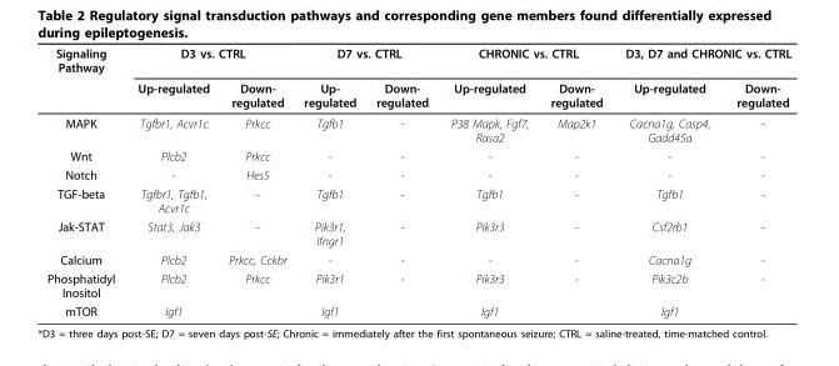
<table><thead><tr><td rowspan="2">Signaling Pathway</td><td colspan="2">D3 vs. CTRL</td><td colspan="2">D7 vs. CTRL</td><td colspan="2">CHRONIC vs. CTRL</td><td colspan="2">D3, D7 and CHRONIC vs. CTRL</td></tr><tr><td>Up-regulated</td><td>Down- regulated</td><td>Up- regulated</td><td>Down- regulated</td><td>Up-regulated</td><td>Down- regulated</td><td>Up-regulated</td><td>Down- regulated</td></tr></thead><tbody><tr><td>MAPK</td><td>Tgfbr1, Acvr1c</td><td>Prkcc</td><td>Tgfb1</td><td>-</td><td>P38 Mapk, Fgf7, Rasa2</td><td>Map2k1</td><td>Cacna1g, Casp4, Gadd45a</td><td>-</td></tr><tr><td>Wnt</td><td>Plcb2</td><td>Prkcc</td><td>-</td><td>-</td><td>-</td><td>-</td><td>-</td><td>-</td></tr><tr><td>Notch</td><td>-</td><td>Hes5</td><td>-</td><td>-</td><td>-</td><td>-</td><td>-</td><td>-</td></tr><tr><td>TGF-beta</td><td>Tgfbr1, Tgfb1, Acvr1c</td><td>-</td><td>Tgfb1</td><td>-</td><td>Tgfb1</td><td>-</td><td>Tgfb1</td><td>-</td></tr><tr><td>Jak-STAT</td><td>Stat3, Jak3</td><td>-</td><td>Pik3r1, Ifngr1</td><td>-</td><td>Pik3r3</td><td>-</td><td>Csf2rb1</td><td>-</td></tr><tr><td>Calcium</td><td>Plcb2</td><td>Prkcc, Cckbr</td><td>-</td><td>-</td><td>-</td><td>-</td><td>Cacna1g</td><td>-</td></tr><tr><td>Phosphatidyl Inositol</td><td>Plcb2</td><td>Prkcc</td><td>Pik3r1</td><td>-</td><td>Pik3r3</td><td>-</td><td>Pik3c2b</td><td>-</td></tr><tr><td>mTOR</td><td>Igf1</td><td></td><td>Igf1</td><td></td><td>Igf1</td><td></td><td>Igf1</td><td></td></tr></tbody></table>